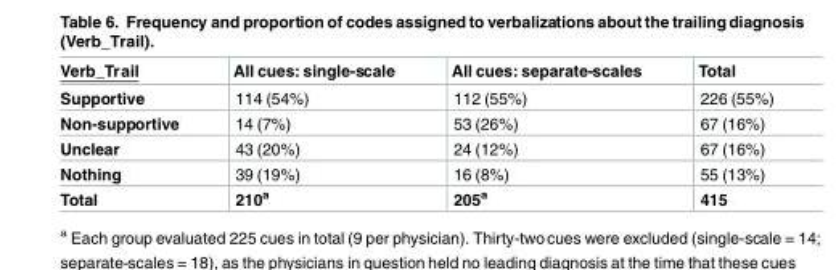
<table><thead><tr><td>Verb_Trail</td><td>All cues: single-scale</td><td>All cues: separate-scales</td><td>Total</td></tr></thead><tbody><tr><td>Supportive</td><td>114 (54%)</td><td>112 (55%)</td><td>226 (55%)</td></tr><tr><td>Non-supportive</td><td>14 (7%)</td><td>53 (26%)</td><td>67 (16%)</td></tr><tr><td>Unclear</td><td>43 (20%)</td><td>24 (12%)</td><td>67 (16%)</td></tr><tr><td>Nothing</td><td>39 (19%)</td><td>16 (8%)</td><td>55 (13%)</td></tr><tr><td>Total</td><td>210<sup>a</sup></td><td>205<sup>a</sup></td><td>415</td></tr></tbody></table>